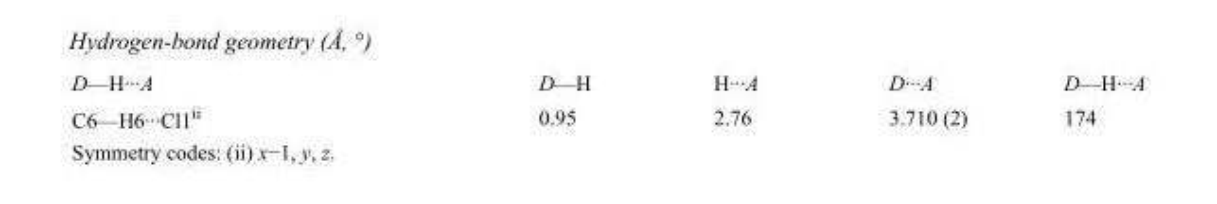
<table><tbody><tr><td>D—H···A</td><td>D—H</td><td>H···A</td><td>D···A</td><td>D—H···A</td></tr><tr><td>C6—H6···Cl1<sup>ii</sup></td><td>0.95</td><td>2.76</td><td>3.710 (2)</td><td>174</td></tr></tbody></table>